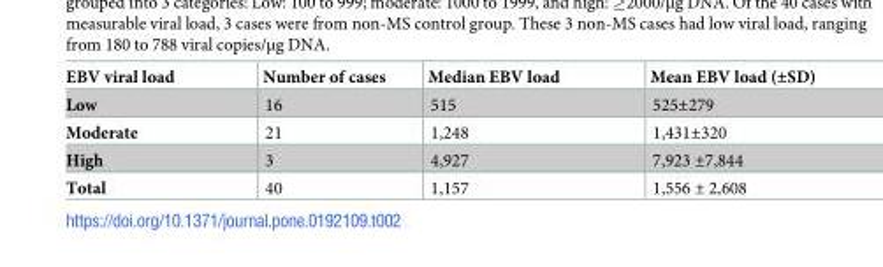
<table><thead><tr><td>EBV viral load</td><td>Number of cases</td><td>Median EBV load</td><td>Mean EBV load (±SD)</td></tr></thead><tbody><tr><td>Low</td><td>16</td><td>515</td><td>525±279</td></tr><tr><td>Moderate</td><td>21</td><td>1,248</td><td>1,431±320</td></tr><tr><td>High</td><td>3</td><td>4,927</td><td>7,923 ±7,844</td></tr><tr><td>Total</td><td>40</td><td>1,157</td><td>1,556 ± 2,608</td></tr></tbody></table>